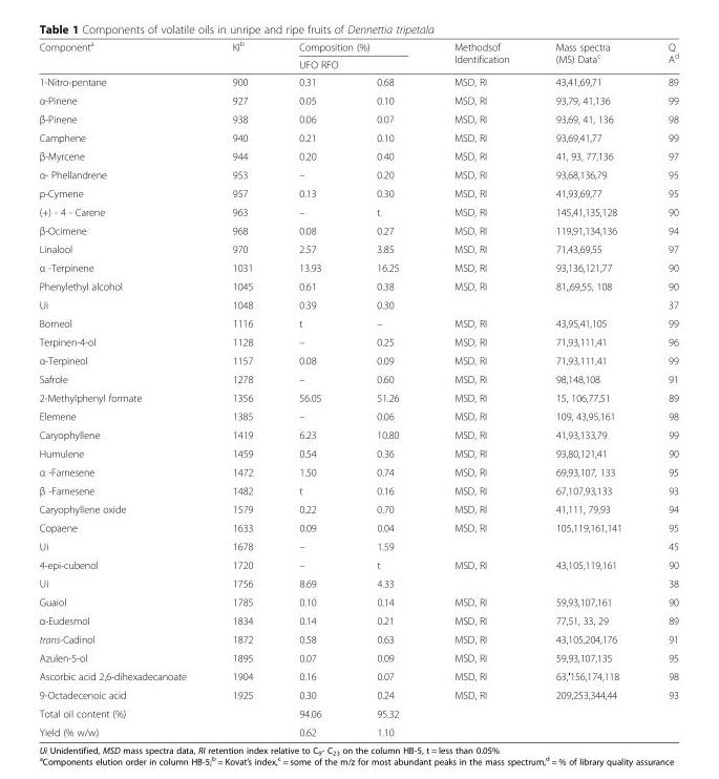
<table><thead><tr><td rowspan="3">Component<sup>a</sup> 1-Nitro-pentane</td><td rowspan="3">KI<sup>b</sup> 900</td><td rowspan="2" colspan="2">Composition (%) UFO RFO</td><td rowspan="3">Methodsof Identification MSD, RI</td><td rowspan="3">Mass spectra (MS) Data<sup>c</sup> 43,41,69,71</td><td rowspan="3">Q A<sup>d</sup> 89</td></tr><tr></tr><tr><td>0.31</td><td>0.68</td></tr></thead><tbody><tr><td>α-Pinene</td><td>927</td><td>0.05</td><td>0.10</td><td>MSD, RI</td><td>93,79, 41,136</td><td>99</td></tr><tr><td>β-Pinene</td><td>938</td><td>0.06</td><td>0.07</td><td>MSD, RI</td><td>93,69, 41, 136</td><td>98</td></tr><tr><td>Camphene</td><td>940</td><td>0.21</td><td>0.10</td><td>MSD, RI</td><td>93,69,41,77</td><td>99</td></tr><tr><td>β-Myrcene</td><td>944</td><td>0.20</td><td>0.40</td><td>MSD, RI</td><td>41, 93, 77,136</td><td>97</td></tr><tr><td>α- Phellandrene</td><td>953</td><td>–</td><td>0.20</td><td>MSD, RI</td><td>93,68,136,79</td><td>95</td></tr><tr><td>p-Cymene</td><td>957</td><td>0.13</td><td>0.30</td><td>MSD, RI</td><td>41,93,69,77</td><td>95</td></tr><tr><td>(+) - 4 - Carene</td><td>963</td><td>–</td><td>t</td><td>MSD, RI</td><td>145,41,135,128</td><td>90</td></tr><tr><td>β-Ocimene</td><td>968</td><td>0.08</td><td>0.27</td><td>MSD, RI</td><td>119,91,134,136</td><td>94</td></tr><tr><td>Linalool</td><td>970</td><td>2.57</td><td>3.85</td><td>MSD, RI</td><td>71,43,69,55</td><td>97</td></tr><tr><td>α -Terpinene</td><td>1031</td><td>13.93</td><td>16.25</td><td>MSD, RI</td><td>93,136,121,77</td><td>90</td></tr><tr><td>Phenylethyl alcohol</td><td>1045</td><td>0.61</td><td>0.38</td><td>MSD, RI</td><td>81,,69,55, 108</td><td>90</td></tr><tr><td>Ui</td><td>1048</td><td>0.39</td><td>0.30</td><td></td><td></td><td>37</td></tr><tr><td>Borneol</td><td>1116</td><td>t</td><td>–</td><td>MSD, RI</td><td>43,95,41,105</td><td>99</td></tr><tr><td>Terpinen-4-ol</td><td>1128</td><td>–</td><td>0.25</td><td>MSD, RI</td><td>71,93,111,41</td><td>96</td></tr><tr><td>α-Terpineol</td><td>1157</td><td>0.08</td><td>0.09</td><td>MSD, RI</td><td>71,93,111,41</td><td>99</td></tr><tr><td>Safrole</td><td>1278</td><td>–</td><td>0.60</td><td>MSD, RI</td><td>98,148,108</td><td>91</td></tr><tr><td>2-Methylphenyl formate</td><td>1356</td><td>56.05</td><td>51.26</td><td>MSD, RI</td><td>15, 106,77,51</td><td>89</td></tr><tr><td>Elemene</td><td>1385</td><td>–</td><td>0.06</td><td>MSD, RI</td><td>109, 43,95,161</td><td>98</td></tr><tr><td>Caryophyllene</td><td>1419</td><td>6.23</td><td>10.80</td><td>MSD, RI</td><td>41,93,133,79</td><td>99</td></tr><tr><td>Humulene</td><td>1459</td><td>0.54</td><td>0.36</td><td>MSD, RI</td><td>93,80,121,41</td><td>90</td></tr><tr><td>α -Farnesene</td><td>1472</td><td>1.50</td><td>0.74</td><td>MSD, RI</td><td>69,93,107, 133</td><td>95</td></tr><tr><td>β -Farnesene</td><td>1482</td><td>t</td><td>0.16</td><td>MSD, RI</td><td>67,107,93,133</td><td>93</td></tr><tr><td>Caryophyllene oxide</td><td>1579</td><td>0.22</td><td>0.70</td><td>MSD, RI</td><td>41,111, 79,93</td><td>94</td></tr><tr><td>Copaene</td><td>1633</td><td>0.09</td><td>0.04</td><td>MSD, RI</td><td>105,119,161,141</td><td>95</td></tr><tr><td>Ui</td><td>1678</td><td>–</td><td>1.59</td><td></td><td></td><td>45</td></tr><tr><td>4-epi-cubenol</td><td>1720</td><td>–</td><td>t</td><td>MSD, RI</td><td>43,105,119,161</td><td>90</td></tr><tr><td>Ui</td><td>1756</td><td>8.69</td><td>4.33</td><td></td><td></td><td>38</td></tr><tr><td>Guaiol</td><td>1785</td><td>0.10</td><td>0.14</td><td>MSD, RI</td><td>59,93,107,161</td><td>90</td></tr><tr><td>α-Eudesmol</td><td>1834</td><td>0.14</td><td>0.21</td><td>MSD, RI</td><td>77,51, 33, 29</td><td>89</td></tr><tr><td>trans-Cadinol</td><td>1872</td><td>0.58</td><td>0.63</td><td>MSD, RI</td><td>43,105,204,176</td><td>91</td></tr><tr><td>Azulen-5-ol</td><td>1895</td><td>0.07</td><td>0.09</td><td>MSD, RI</td><td>59,93,107,135</td><td>95</td></tr><tr><td>Ascorbic acid 2,6-dihexadecanoate</td><td>1904</td><td>0.16</td><td>0.07</td><td>MSD, RI</td><td>63,′156,174,118</td><td>98</td></tr><tr><td>9-Octadecenoic acid</td><td>1925</td><td>0.30</td><td>0.24</td><td>MSD, RI</td><td>209,253,344,44</td><td>93</td></tr><tr><td>Total oil content (%)</td><td></td><td>94.06</td><td>95.32</td><td></td><td></td><td></td></tr><tr><td>Yield (% w/w)</td><td></td><td>0.62</td><td>1.10</td><td></td><td></td><td></td></tr></tbody></table>